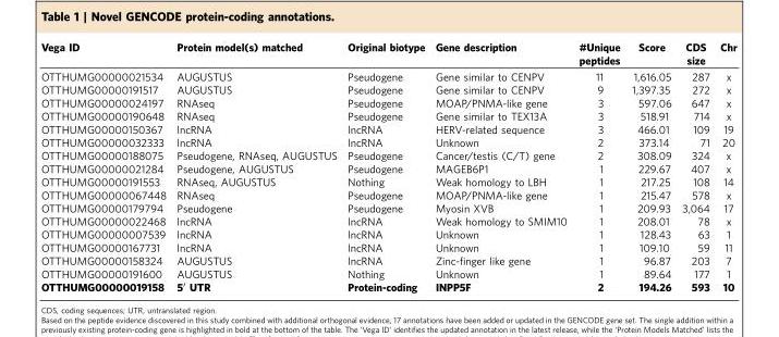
<table><thead><tr><td>Vega ID</td><td>Protein model(s) matched</td><td>Original biotype</td><td>Gene description</td><td>#Unique peptides</td><td>Score</td><td>CDS size</td><td>Chr</td></tr></thead><tbody><tr><td>OTTHUMG00000021534</td><td>AUGUSTUS</td><td>Pseudogene</td><td>Gene similar to CENPV</td><td>11</td><td>1,616.05</td><td>287</td><td>x</td></tr><tr><td>OTTHUMG00000191517</td><td>AUGUSTUS</td><td>Pseudogene</td><td>Gene similar to CENPV</td><td>9</td><td>1,397.35</td><td>272</td><td>x</td></tr><tr><td>OTTHUMG00000024197</td><td>RNAseq</td><td>Pseudogene</td><td>MOAP/PNMA-like gene</td><td>3</td><td>597.06</td><td>647</td><td>x</td></tr><tr><td>OTTHUMG00000190648</td><td>RNAseq</td><td>Pseudogene</td><td>Gene similar to TEX13A</td><td>3</td><td>518.91</td><td>714</td><td>x</td></tr><tr><td>OTTHUMG00000150367</td><td>lncRNA</td><td>lncRNA</td><td>HERV-related sequence</td><td>3</td><td>466.01</td><td>109</td><td>19</td></tr><tr><td>OTTHUMG00000032333</td><td>lncRNA</td><td>lncRNA</td><td>Unknown</td><td>2</td><td>373.14</td><td>71</td><td>20</td></tr><tr><td>OTTHUMG00000188075</td><td>Pseudogene, RNAseq, AUGUSTUS</td><td>Pseudogene</td><td>Cancer/testis (C/T) gene</td><td>2</td><td>308.09</td><td>324</td><td>x</td></tr><tr><td>OTTHUMG00000021284</td><td>Pseudogene, AUGUSTUS</td><td>Pseudogene</td><td>MAGEB6P1</td><td>1</td><td>229.67</td><td>407</td><td>x</td></tr><tr><td>OTTHUMG00000191553</td><td>RNAseq, AUGUSTUS</td><td>Nothing</td><td>Weak homology to LBH</td><td>1</td><td>217.25</td><td>108</td><td>14</td></tr><tr><td>OTTHUMG00000067448</td><td>RNAseq</td><td>Pseudogene</td><td>MOAP/PNMA-like gene</td><td>1</td><td>215.47</td><td>578</td><td>x</td></tr><tr><td>OTTHUMG00000179794</td><td>Pseudogene</td><td>Pseudogene</td><td>Myosin XVB</td><td>1</td><td>209.93</td><td>3,064</td><td>17</td></tr><tr><td>OTTHUMG00000022468</td><td>lncRNA</td><td>lncRNA</td><td>Weak homology to SMIM10</td><td>1</td><td>208.01</td><td>78</td><td>x</td></tr><tr><td>OTTHUMG00000007539</td><td>lncRNA</td><td>lncRNA</td><td>Unknown</td><td>1</td><td>128.43</td><td>63</td><td>1</td></tr><tr><td>OTTHUMG00000167731</td><td>lncRNA</td><td>lncRNA</td><td>Unknown</td><td>1</td><td>109.10</td><td>59</td><td>11</td></tr><tr><td>OTTHUMG00000158324</td><td>AUGUSTUS</td><td>lncRNA</td><td>Zinc-finger like gene</td><td>1</td><td>96.87</td><td>203</td><td>7</td></tr><tr><td>OTTHUMG00000191600</td><td>AUGUSTUS</td><td>Nothing</td><td>Unknown</td><td>1</td><td>89.64</td><td>177</td><td>1</td></tr><tr><td>OTTHUMG00000019158</td><td>5′ UTR</td><td>Protein-coding</td><td>INPP5F</td><td>2</td><td>194.26</td><td>593</td><td>10</td></tr></tbody></table>